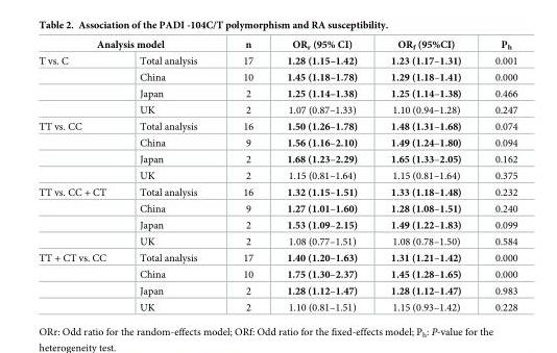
<table><thead><tr><td colspan="2">Analysis model</td><td rowspan="2">n 17</td><td rowspan="2">OR<sub>r</sub> (95% CI) 1.28 (1.15–1.42)</td><td rowspan="2">OR<sub>f</sub> (95%CI) 1.23 (1.17–1.31)</td><td rowspan="2">P<sub>h</sub> 0.001</td></tr><tr><td>T vs. C</td><td>Total analysis</td></tr></thead><tbody><tr><td></td><td>China</td><td>10</td><td>1.45 (1.18–1.78)</td><td>1.29 (1.18–1.41)</td><td>0.000</td></tr><tr><td></td><td>Japan</td><td>2</td><td>1.25 (1.14–1.38)</td><td>1.25 (1.14–1.38)</td><td>0.466</td></tr><tr><td></td><td>UK</td><td>2</td><td>1.07 (0.87–1.33)</td><td>1.10 (0.94–1.28)</td><td>0.247</td></tr><tr><td rowspan="4">TT vs. CC</td><td>Total analysis</td><td>16</td><td>1.50 (1.26–1.78)</td><td>1.48 (1.31–1.68)</td><td>0.074</td></tr><tr><td>China</td><td>9</td><td>1.56 (1.16–2.10)</td><td>1.49 (1.24–1.80)</td><td>0.094</td></tr><tr><td>Japan</td><td>2</td><td>1.68 (1.23–2.29)</td><td>1.65 (1.33–2.05)</td><td>0.162</td></tr><tr><td>UK</td><td>2</td><td>1.15 (0.81–1.64)</td><td>1.15 (0.81–1.64)</td><td>0.375</td></tr><tr><td rowspan="4">TT vs. CC + CT</td><td>Total analysis</td><td>16</td><td>1.32 (1.15–1.51)</td><td>1.33 (1.18–1.48)</td><td>0.232</td></tr><tr><td>China</td><td>9</td><td>1.27 (1.01–1.60)</td><td>1.28 (1.08–1.51)</td><td>0.240</td></tr><tr><td>Japan</td><td>2</td><td>1.53 (1.09–2.15)</td><td>1.49 (1.22–1.83)</td><td>0.099</td></tr><tr><td>UK</td><td>2</td><td>1.08 (0.77–1.51)</td><td>1.08 (0.78–1.50)</td><td>0.584</td></tr><tr><td rowspan="4">TT + CT vs. CC</td><td>Total analysis</td><td>17</td><td>1.40 (1.20–1.63)</td><td>1.31 (1.21–1.42)</td><td>0.000</td></tr><tr><td>China</td><td>10</td><td>1.75 (1.30–2.37)</td><td>1.45 (1.28–1.65)</td><td>0.000</td></tr><tr><td>Japan</td><td>2</td><td>1.28 (1.12–1.47)</td><td>1.28 (1.12–1.47)</td><td>0.983</td></tr><tr><td>UK</td><td>2</td><td>1.10 (0.81–1.51)</td><td>1.15 (0.93–1.42)</td><td>0.228</td></tr></tbody></table>